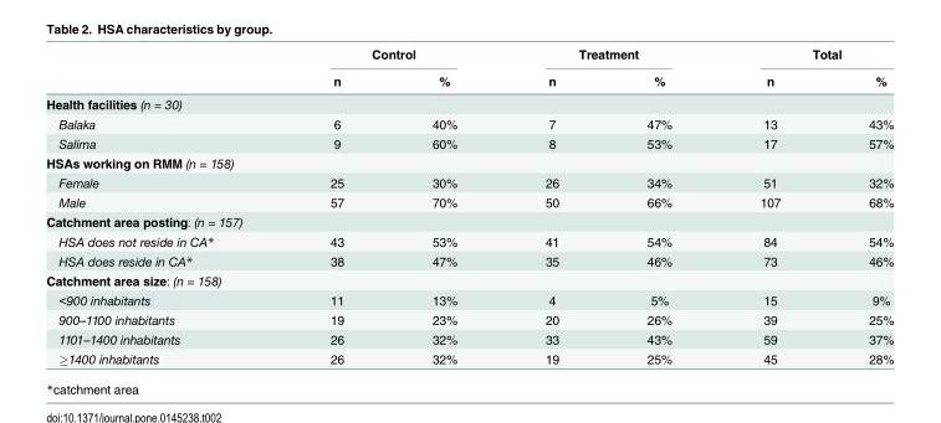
<table><thead><tr><td rowspan="2"></td><td colspan="2">Control</td><td colspan="2">Treatment</td><td colspan="2">Total</td></tr><tr><td>n</td><td>%</td><td>n</td><td>%</td><td>n</td><td>%</td></tr></thead><tbody><tr><td colspan="7">Health facilities (n = 30)</td></tr><tr><td>Balaka</td><td>6</td><td>40%</td><td>7</td><td>47%</td><td>13</td><td>43%</td></tr><tr><td>Salima</td><td>9</td><td>60%</td><td>8</td><td>53%</td><td>17</td><td>57%</td></tr><tr><td colspan="7">HSAs working on RMM (n = 158)</td></tr><tr><td>Female</td><td>25</td><td>30%</td><td>26</td><td>34%</td><td>51</td><td>32%</td></tr><tr><td>Male</td><td>57</td><td>70%</td><td>50</td><td>66%</td><td>107</td><td>68%</td></tr><tr><td colspan="7">Catchment area posting: (n = 157)</td></tr><tr><td>HSA does not reside in CA*</td><td>43</td><td>53%</td><td>41</td><td>54%</td><td>84</td><td>54%</td></tr><tr><td>HSA does reside in CA*</td><td>38</td><td>47%</td><td>35</td><td>46%</td><td>73</td><td>46%</td></tr><tr><td colspan="7">Catchment area size: (n = 158)</td></tr><tr><td>&lt;900 inhabitants</td><td>11</td><td>13%</td><td>4</td><td>5%</td><td>15</td><td>9%</td></tr><tr><td>900–1100 inhabitants</td><td>19</td><td>23%</td><td>20</td><td>26%</td><td>39</td><td>25%</td></tr><tr><td>1101–1400 inhabitants</td><td>26</td><td>32%</td><td>33</td><td>43%</td><td>59</td><td>37%</td></tr><tr><td>≥1400 inhabitants</td><td>26</td><td>32%</td><td>19</td><td>25%</td><td>45</td><td>28%</td></tr></tbody></table>